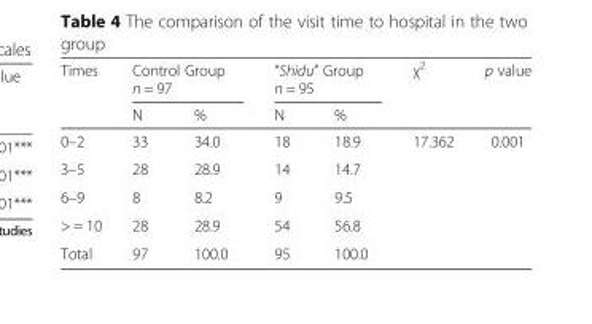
<table><thead><tr><td rowspan="2">Times</td><td colspan="2">Control Group n = 97</td><td colspan="2">“Shidu” Group n = 95</td><td rowspan="2">χ<sup>2</sup></td><td rowspan="2">p value</td></tr><tr><td>N</td><td>%</td><td>N</td><td>%</td></tr></thead><tbody><tr><td>0–2</td><td>33</td><td>34.0</td><td>18</td><td>18.9</td><td>17.362</td><td>0.001</td></tr><tr><td>3–5</td><td>28</td><td>28.9</td><td>14</td><td>14.7</td><td></td><td></td></tr><tr><td>6–9</td><td>8</td><td>8.2</td><td>9</td><td>9.5</td><td></td><td></td></tr><tr><td>&gt; = 10</td><td>28</td><td>28.9</td><td>54</td><td>56.8</td><td></td><td></td></tr><tr><td>Total</td><td>97</td><td>100.0</td><td>95</td><td>100.0</td><td></td><td></td></tr></tbody></table>